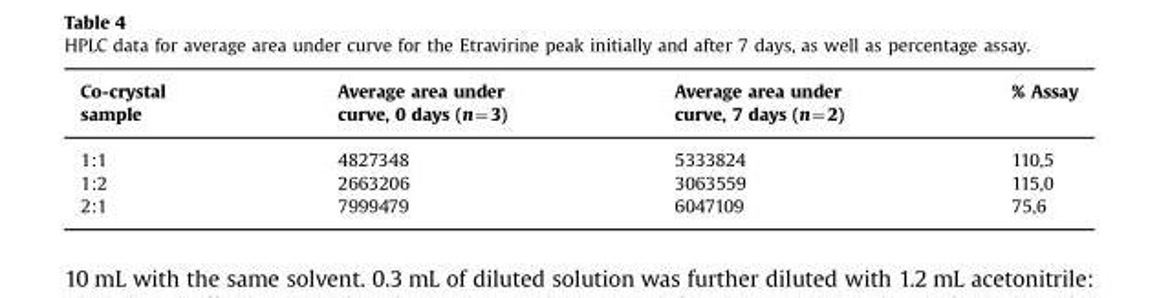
<table><thead><tr><td>Co-crystal sample</td><td>Average area under curve, 0 days (n=3)</td><td>Average area under curve, 7 days (n=2)</td><td>% Assay</td></tr></thead><tbody><tr><td>1:1</td><td>4827348</td><td>5333824</td><td>110,5</td></tr><tr><td>1:2</td><td>2663206</td><td>3063559</td><td>115,0</td></tr><tr><td>2:1</td><td>7999479</td><td>6047109</td><td>75,6</td></tr></tbody></table>